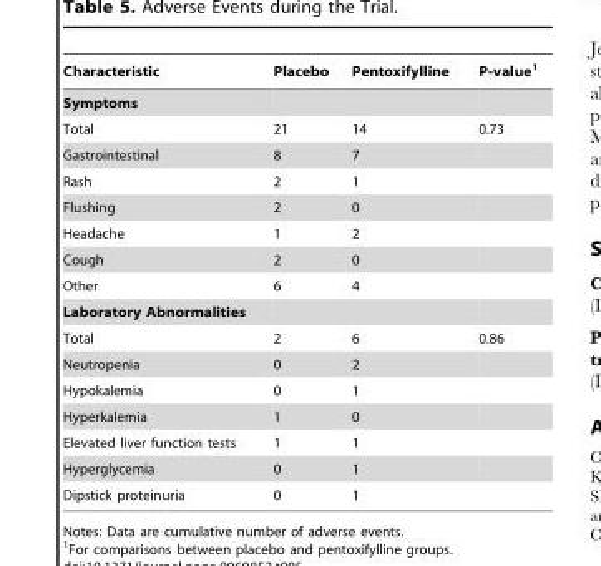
<table><thead><tr><td>Characteristic</td><td>Placebo</td><td>Pentoxifylline</td><td>P-value<sup>1</sup></td></tr></thead><tbody><tr><td colspan="4">Symptoms</td></tr><tr><td>Total</td><td>21</td><td>14</td><td>0.73</td></tr><tr><td>Gastrointestinal</td><td>8</td><td>7</td><td></td></tr><tr><td>Rash</td><td>2</td><td>1</td><td></td></tr><tr><td>Flushing</td><td>2</td><td>0</td><td></td></tr><tr><td>Headache</td><td>1</td><td>2</td><td></td></tr><tr><td>Cough</td><td>2</td><td>0</td><td></td></tr><tr><td>Other</td><td>6</td><td>4</td><td></td></tr><tr><td colspan="4">Laboratory Abnormalities</td></tr><tr><td>Total</td><td>2</td><td>6</td><td>0.86</td></tr><tr><td>Neutropenia</td><td>0</td><td>2</td><td></td></tr><tr><td>Hypokalemia</td><td>0</td><td>1</td><td></td></tr><tr><td>Hyperkalemia</td><td>1</td><td>0</td><td></td></tr><tr><td>Elevated liver function tests</td><td>1</td><td>1</td><td></td></tr><tr><td>Hyperglycemia</td><td>0</td><td>1</td><td></td></tr><tr><td>Dipstick proteinuria</td><td>0</td><td>1</td><td></td></tr></tbody></table>